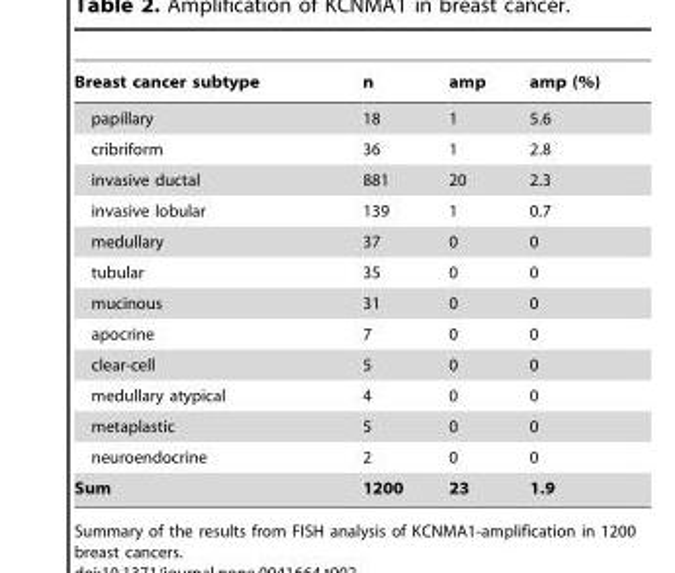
<table><thead><tr><td>Breast cancer subtype</td><td>n</td><td>amp</td><td>amp (%)</td></tr></thead><tbody><tr><td>papillary</td><td>18</td><td>1</td><td>5.6</td></tr><tr><td>cribriform</td><td>36</td><td>1</td><td>2.8</td></tr><tr><td>invasive ductal</td><td>881</td><td>20</td><td>2.3</td></tr><tr><td>invasive lobular</td><td>139</td><td>1</td><td>0.7</td></tr><tr><td>medullary</td><td>37</td><td>0</td><td>0</td></tr><tr><td>tubular</td><td>35</td><td>0</td><td>0</td></tr><tr><td>mucinous</td><td>31</td><td>0</td><td>0</td></tr><tr><td>apocrine</td><td>7</td><td>0</td><td>0</td></tr><tr><td>clear-cell</td><td>5</td><td>0</td><td>0</td></tr><tr><td>medullary atypical</td><td>4</td><td>0</td><td>0</td></tr><tr><td>metaplastic</td><td>5</td><td>0</td><td>0</td></tr><tr><td>neuroendocrine</td><td>2</td><td>0</td><td>0</td></tr><tr><td>Sum</td><td>1200</td><td>23</td><td>1.9</td></tr></tbody></table>